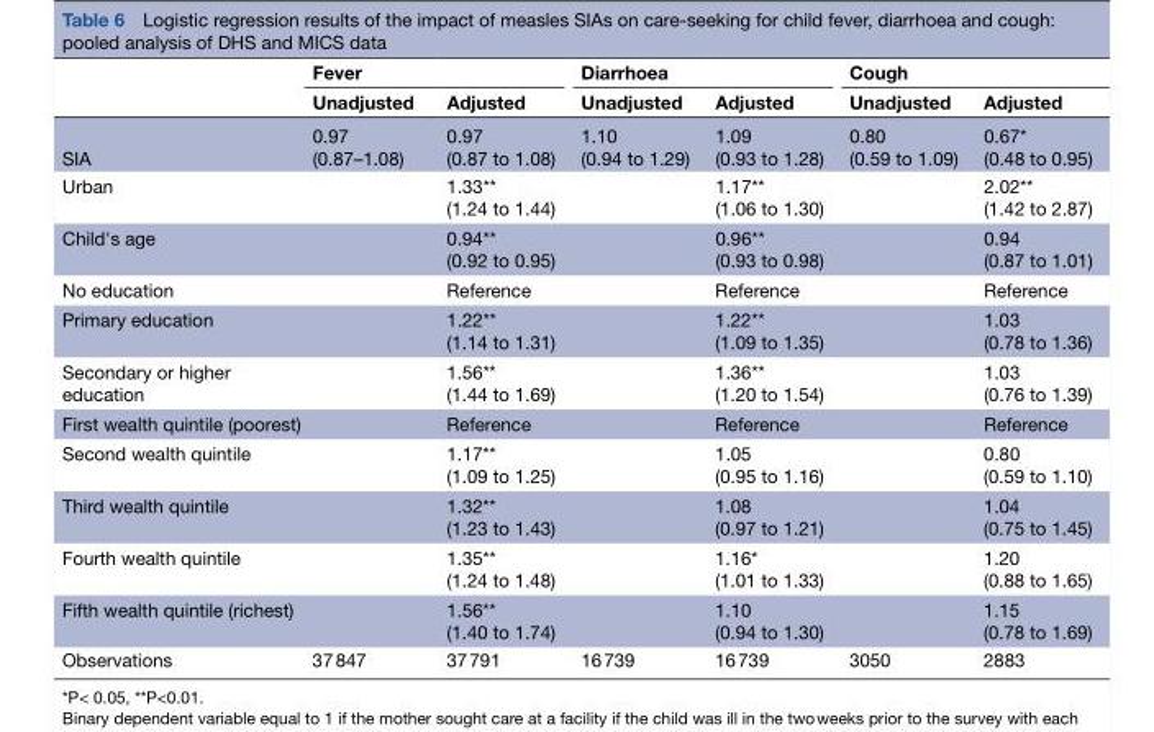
<table><thead><tr><td rowspan="2"></td><td colspan="2">Fever</td><td colspan="2">Diarrhoea</td><td colspan="2">Cough</td></tr><tr><td>Unadjusted</td><td>Adjusted</td><td>Unadjusted</td><td>Adjusted</td><td>Unadjusted</td><td>Adjusted</td></tr></thead><tbody><tr><td>SIA</td><td>0.97 (0.87–1.08)</td><td>0.97 (0.87 to 1.08)</td><td>1.10 (0.94 to 1.29)</td><td>1.09 (0.93 to 1.28)</td><td>0.80 (0.59 to 1.09)</td><td>0.67* (0.48 to 0.95)</td></tr><tr><td>Urban</td><td></td><td>1.33** (1.24 to 1.44)</td><td></td><td>1.17** (1.06 to 1.30)</td><td></td><td>2.02** (1.42 to 2.87)</td></tr><tr><td>Child&#x27;s age</td><td></td><td>0.94** (0.92 to 0.95)</td><td></td><td>0.96** (0.93 to 0.98)</td><td></td><td>0.94 (0.87 to 1.01)</td></tr><tr><td>No education</td><td></td><td>Reference</td><td></td><td>Reference</td><td></td><td>Reference</td></tr><tr><td>Primary education</td><td></td><td>1.22** (1.14 to 1.31)</td><td></td><td>1.22** (1.09 to 1.35)</td><td></td><td>1.03 (0.78 to 1.36)</td></tr><tr><td>Secondary or higher education</td><td></td><td>1.56** (1.44 to 1.69)</td><td></td><td>1.36** (1.20 to 1.54)</td><td></td><td>1.03 (0.76 to 1.39)</td></tr><tr><td>First wealth quintile (poorest)</td><td></td><td>Reference</td><td></td><td>Reference</td><td></td><td>Reference</td></tr><tr><td>Second wealth quintile</td><td></td><td>1.17** (1.09 to 1.25)</td><td></td><td>1.05 (0.95 to 1.16)</td><td></td><td>0.80 (0.59 to 1.10)</td></tr><tr><td>Third wealth quintile</td><td></td><td>1.32** (1.23 to 1.43)</td><td></td><td>1.08 (0.97 to 1.21)</td><td></td><td>1.04 (0.75 to 1.45)</td></tr><tr><td>Fourth wealth quintile</td><td></td><td>1.35** (1.24 to 1.48)</td><td></td><td>1.16* (1.01 to 1.33)</td><td></td><td>1.20 (0.88 to 1.65)</td></tr><tr><td>Fifth wealth quintile (richest)</td><td></td><td>1.56** (1.40 to 1.74)</td><td></td><td>1.10 (0.94 to 1.30)</td><td></td><td>1.15 (0.78 to 1.69)</td></tr><tr><td>Observations</td><td>37 847</td><td>37 791</td><td>16 739</td><td>16 739</td><td>3050</td><td>2883</td></tr></tbody></table>